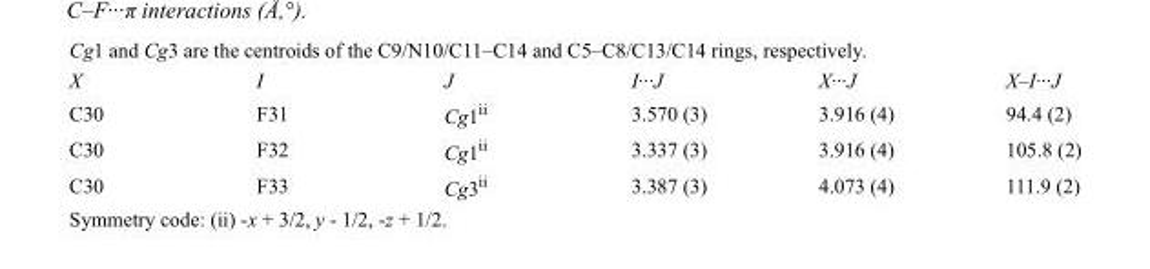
<table><tbody><tr><td>X</td><td>I</td><td>J</td><td>I···J</td><td>X···J</td><td>X–I···J</td></tr><tr><td>C30</td><td>F31</td><td>Cg1<sup>ii</sup></td><td>3.570 (3)</td><td>3.916 (4)</td><td>94.4 (2)</td></tr><tr><td>C30</td><td>F32</td><td>Cg1<sup>ii</sup></td><td>3.337 (3)</td><td>3.916 (4)</td><td>105.8 (2)</td></tr><tr><td>C30</td><td>F33</td><td>Cg3<sup>ii</sup></td><td>3.387 (3)</td><td>4.073 (4)</td><td>111.9 (2)</td></tr></tbody></table>